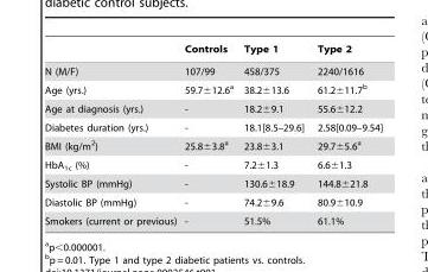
<table><thead><tr><td></td><td>Controls</td><td>Type 1</td><td>Type 2</td></tr></thead><tbody><tr><td>N (M/F)</td><td>107/99</td><td>458/375</td><td>2240/1616</td></tr><tr><td>Age (yrs.)</td><td>59.7±12.6<sup>a</sup></td><td>38.2±13.6</td><td>61.2±11.7<sup>b</sup></td></tr><tr><td>Age at diagnosis (yrs.)</td><td>-</td><td>18.2±9.1</td><td>55.6±12.2</td></tr><tr><td>Diabetes duration (yrs.)</td><td>-</td><td>18.1[8.5–29.6]</td><td>2.58[0.09–9.54]</td></tr><tr><td>BMI (kg/m<sup>2</sup>)</td><td>25.8±3.8<sup>a</sup></td><td>23.8±3.1</td><td>29.7±5.6<sup>a</sup></td></tr><tr><td>HbA<sub>1c</sub> (%)</td><td>-</td><td>7.2±1.3</td><td>6.6±1.3</td></tr><tr><td>Systolic BP (mmHg)</td><td>-</td><td>130.6±18.9</td><td>144.8±21.8</td></tr><tr><td>Diastolic BP (mmHg)</td><td>-</td><td>74.2±9.6</td><td>80.9±10.9</td></tr><tr><td>Smokers (current or previous)</td><td>-</td><td>51.5%</td><td>61.1%</td></tr></tbody></table>